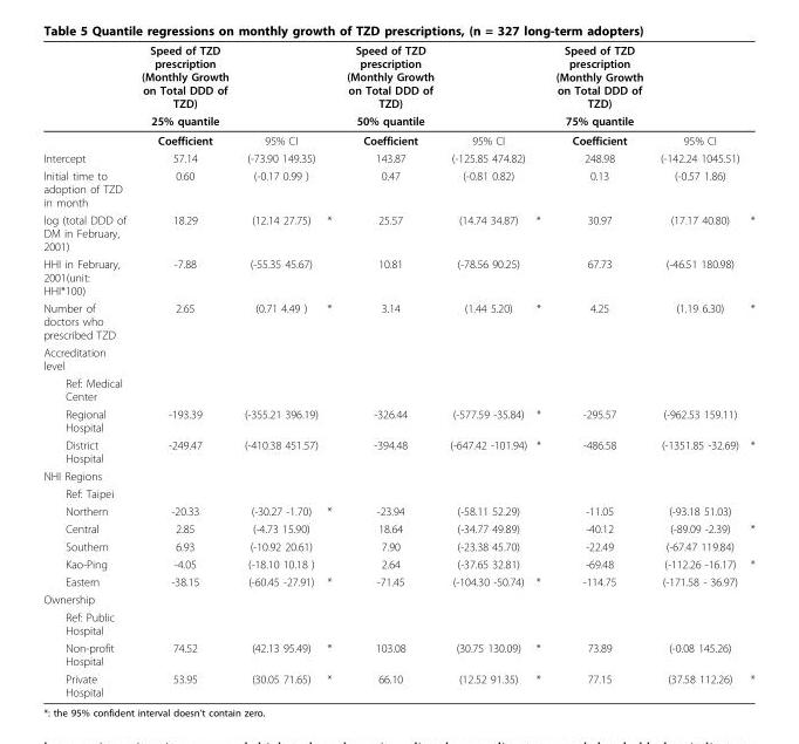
<table><thead><tr><td rowspan="2"></td><td rowspan="2">Speed of TZD prescription (Monthly Growth on Total DDD of TZD) 25% quantile</td><td rowspan="2"></td><td rowspan="2"></td><td rowspan="2">Speed of TZD prescription (Monthly Growth on Total DDD of TZD) 50% quantile</td><td rowspan="2"></td><td rowspan="2"></td><td rowspan="2">Speed of TZD prescription (Monthly Growth on Total DDD of TZD) 75% quantile</td><td rowspan="2"></td><td rowspan="2"></td></tr><tr></tr></thead><tbody><tr><td></td><td>Coefficient</td><td>95% CI</td><td></td><td>Coefficient</td><td>95% CI</td><td></td><td>Coefficient</td><td>95% CI</td><td></td></tr><tr><td>Intercept</td><td>57.14</td><td>(-73.90 149.35)</td><td></td><td>143.87</td><td>(-125.85 474.82)</td><td></td><td>248.98</td><td>(-142.24 1045.51)</td><td></td></tr><tr><td>Initial time to adoption of TZD in month</td><td>0.60</td><td>(-0.17 0.99 )</td><td></td><td>0.47</td><td>(-0.81 0.82)</td><td></td><td>0.13</td><td>(-0.57 1.86)</td><td></td></tr><tr><td>log (total DDD of DM in February, 2001)</td><td>18.29</td><td>(12.14 27.75)</td><td>*</td><td>25.57</td><td>(14.74 34.87)</td><td>*</td><td>30.97</td><td>(17.17 40.80)</td><td>*</td></tr><tr><td>HHI in February, 2001(unit: HHI*100)</td><td>-7.88</td><td>(-55.35 45.67)</td><td></td><td>10.81</td><td>(-78.56 90.25)</td><td></td><td>67.73</td><td>(-46.51 180.98)</td><td></td></tr><tr><td>Number of doctors who prescribed TZD</td><td>2.65</td><td>(0.71 4.49 )</td><td>*</td><td>3.14</td><td>(1.44 5.20)</td><td>*</td><td>4.25</td><td>(1.19 6.30)</td><td>*</td></tr><tr><td colspan="10">Accreditation level</td></tr><tr><td colspan="10">Ref: Medical Center</td></tr><tr><td>Regional Hospital</td><td>-193.39</td><td>(-355.21 396.19)</td><td></td><td>-326.44</td><td>(-577.59 -35.84)</td><td>*</td><td>-295.57</td><td>(-962.53 159.11)</td><td></td></tr><tr><td>District Hospital</td><td>-249.47</td><td>(-410.38 451.57)</td><td></td><td>-394.48</td><td>(-647.42 -101.94)</td><td>*</td><td>-486.58</td><td>(-1351.85 -32.69)</td><td>*</td></tr><tr><td colspan="10">NHI Regions</td></tr><tr><td colspan="10">Ref: Taipei</td></tr><tr><td>Northern</td><td>-20.33</td><td>(-30.27 -1.70)</td><td>*</td><td>-23.94</td><td>(-58.11 52.29)</td><td></td><td>-11.05</td><td>(-93.18 51.03)</td><td></td></tr><tr><td>Central</td><td>2.85</td><td>(-4.73 15.90)</td><td></td><td>18.64</td><td>(-34.77 49.89)</td><td></td><td>-40.12</td><td>(-89.09 -2.39)</td><td>*</td></tr><tr><td>Southern</td><td>6.93</td><td>(-10.92 20.61)</td><td></td><td>7.90</td><td>(-23.38 45.70)</td><td></td><td>-22.49</td><td>(-67.47 119.84)</td><td></td></tr><tr><td>Kao-Ping</td><td>-4.05</td><td>(-18.10 10.18 )</td><td></td><td>2.64</td><td>(-37.65 32.81)</td><td></td><td>-69.48</td><td>(-112.26 -16.17)</td><td>*</td></tr><tr><td>Eastern</td><td>-38.15</td><td>(-60.45 -27.91)</td><td>*</td><td>-71.45</td><td>(-104.30 -50.74)</td><td>*</td><td>-114.75</td><td>(-171.58 - 36.97)</td><td></td></tr><tr><td colspan="10">Ownership</td></tr><tr><td colspan="10">Ref: Public Hospital</td></tr><tr><td>Non-profit Hospital</td><td>74.52</td><td>(42.13 95.49)</td><td>*</td><td>103.08</td><td>(30.75 130.09)</td><td>*</td><td>73.89</td><td>(-0.08 145.26)</td><td></td></tr><tr><td>Private Hospital</td><td>53.95</td><td>(30.05 71.65)</td><td>*</td><td>66.10</td><td>(12.52 91.35)</td><td>*</td><td>77.15</td><td>(37.58 112.26)</td><td>*</td></tr></tbody></table>